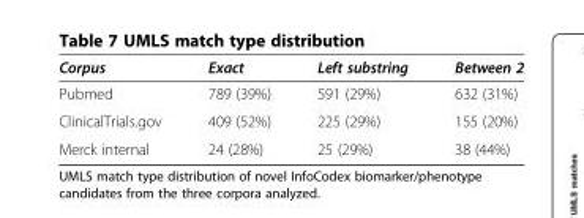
<table><thead><tr><td>Corpus</td><td>Exact</td><td>Left substring</td><td>Between 2</td></tr></thead><tbody><tr><td>Pubmed</td><td>789 (39%)</td><td>591 (29%)</td><td>632 (31%)</td></tr><tr><td>ClinicalTrials.gov</td><td>409 (52%)</td><td>225 (29%)</td><td>155 (20%)</td></tr><tr><td>Merck internal</td><td>24 (28%)</td><td>25 (29%)</td><td>38 (44%)</td></tr></tbody></table>